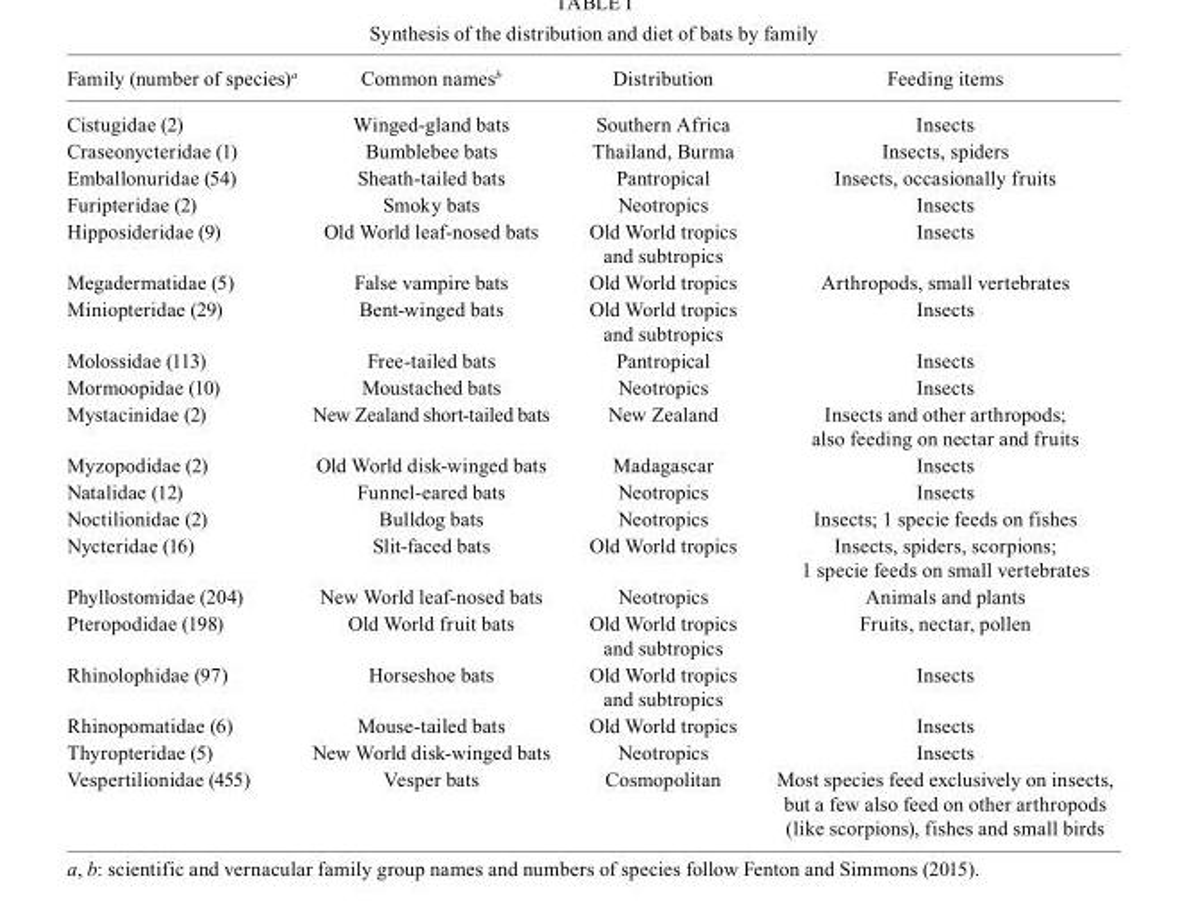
<table><thead><tr><td>Family (number of species)<sup>a</sup></td><td>Common names<sup>b</sup></td><td>Distribution</td><td>Feeding items</td></tr></thead><tbody><tr><td>Cistugidae (2)</td><td>Winged-gland bats</td><td>Southern Africa</td><td>Insects</td></tr><tr><td>Craseonycteridae (1)</td><td>Bumblebee bats</td><td>Thailand, Burma</td><td>Insects, spiders</td></tr><tr><td>Emballonuridae (54)</td><td>Sheath-tailed bats</td><td>Pantropical</td><td>Insects, occasionally fruits</td></tr><tr><td>Furipteridae (2)</td><td>Smoky bats</td><td>Neotropics</td><td>Insects</td></tr><tr><td>Hipposideridae (9)</td><td>Old World leaf-nosed bats</td><td>Old World tropics and subtropics</td><td>Insects</td></tr><tr><td>Megadermatidae (5)</td><td>False vampire bats</td><td>Old World tropics</td><td>Arthropods, small vertebrates</td></tr><tr><td>Miniopteridae (29)</td><td>Bent-winged bats</td><td>Old World tropics and subtropics</td><td>Insects</td></tr><tr><td>Molossidae (113)</td><td>Free-tailed bats</td><td>Pantropical</td><td>Insects</td></tr><tr><td>Mormoopidae (10)</td><td>Moustached bats</td><td>Neotropics</td><td>Insects</td></tr><tr><td>Mystacinidae (2)</td><td>New Zealand short-tailed bats</td><td>New Zealand</td><td>Insects and other arthropods; also feeding on nectar and fruits</td></tr><tr><td>Myzopodidae (2)</td><td>Old World disk-winged bats</td><td>Madagascar</td><td>Insects</td></tr><tr><td>Natalidae (12)</td><td>Funnel-eared bats</td><td>Neotropics</td><td>Insects</td></tr><tr><td>Noctilionidae (2)</td><td>Bulldog bats</td><td>Neotropics</td><td>Insects; 1 specie feeds on fishes</td></tr><tr><td>Nycteridae (16)</td><td>Slit-faced bats</td><td>Old World tropics</td><td>Insects, spiders, scorpions; 1 specie feeds on small vertebrates</td></tr><tr><td>Phyllostomidae (204)</td><td>New World leaf-nosed bats</td><td>Neotropics</td><td>Animals and plants</td></tr><tr><td>Pteropodidae (198)</td><td>Old World fruit bats</td><td>Old World tropics and subtropics</td><td>Fruits, nectar, pollen</td></tr><tr><td>Rhinolophidae (97)</td><td>Horseshoe bats</td><td>Old World tropics and subtropics</td><td>Insects</td></tr><tr><td>Rhinopomatidae (6)</td><td>Mouse-tailed bats</td><td>Old World tropics</td><td>Insects</td></tr><tr><td>Thyropteridae (5)</td><td>New World disk-winged bats</td><td>Neotropics</td><td>Insects</td></tr><tr><td>Vespertilionidae (455)</td><td>Vesper bats</td><td>Cosmopolitan</td><td>Most species feed exclusively on insects, but a few also feed on other arthropods (like scorpions), fishes and small birds</td></tr></tbody></table>